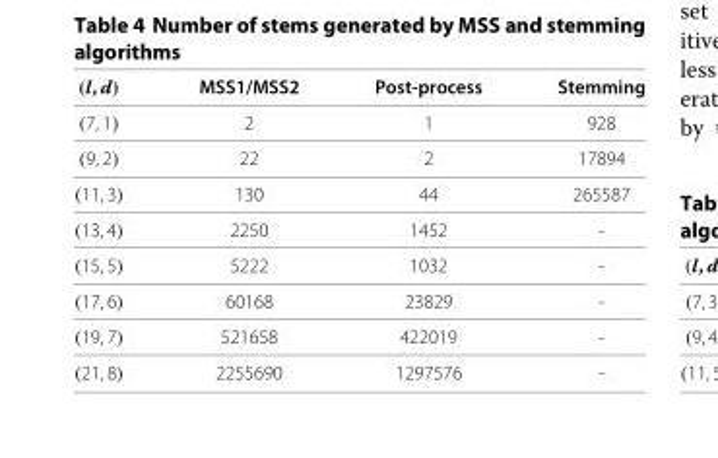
<table><thead><tr><td>(l, d)</td><td>MSS1/MSS2</td><td>Post-process</td><td>Stemming</td></tr></thead><tbody><tr><td>(7, 1)</td><td>2</td><td>1</td><td>928</td></tr><tr><td>(9, 2)</td><td>22</td><td>2</td><td>17894</td></tr><tr><td>(11, 3)</td><td>130</td><td>44</td><td>265587</td></tr><tr><td>(13, 4)</td><td>2250</td><td>1452</td><td>-</td></tr><tr><td>(15, 5)</td><td>5222</td><td>1032</td><td>-</td></tr><tr><td>(17, 6)</td><td>60168</td><td>23829</td><td>-</td></tr><tr><td>(19, 7)</td><td>521658</td><td>422019</td><td>-</td></tr><tr><td>(21, 8)</td><td>2255690</td><td>1297576</td><td>-</td></tr></tbody></table>